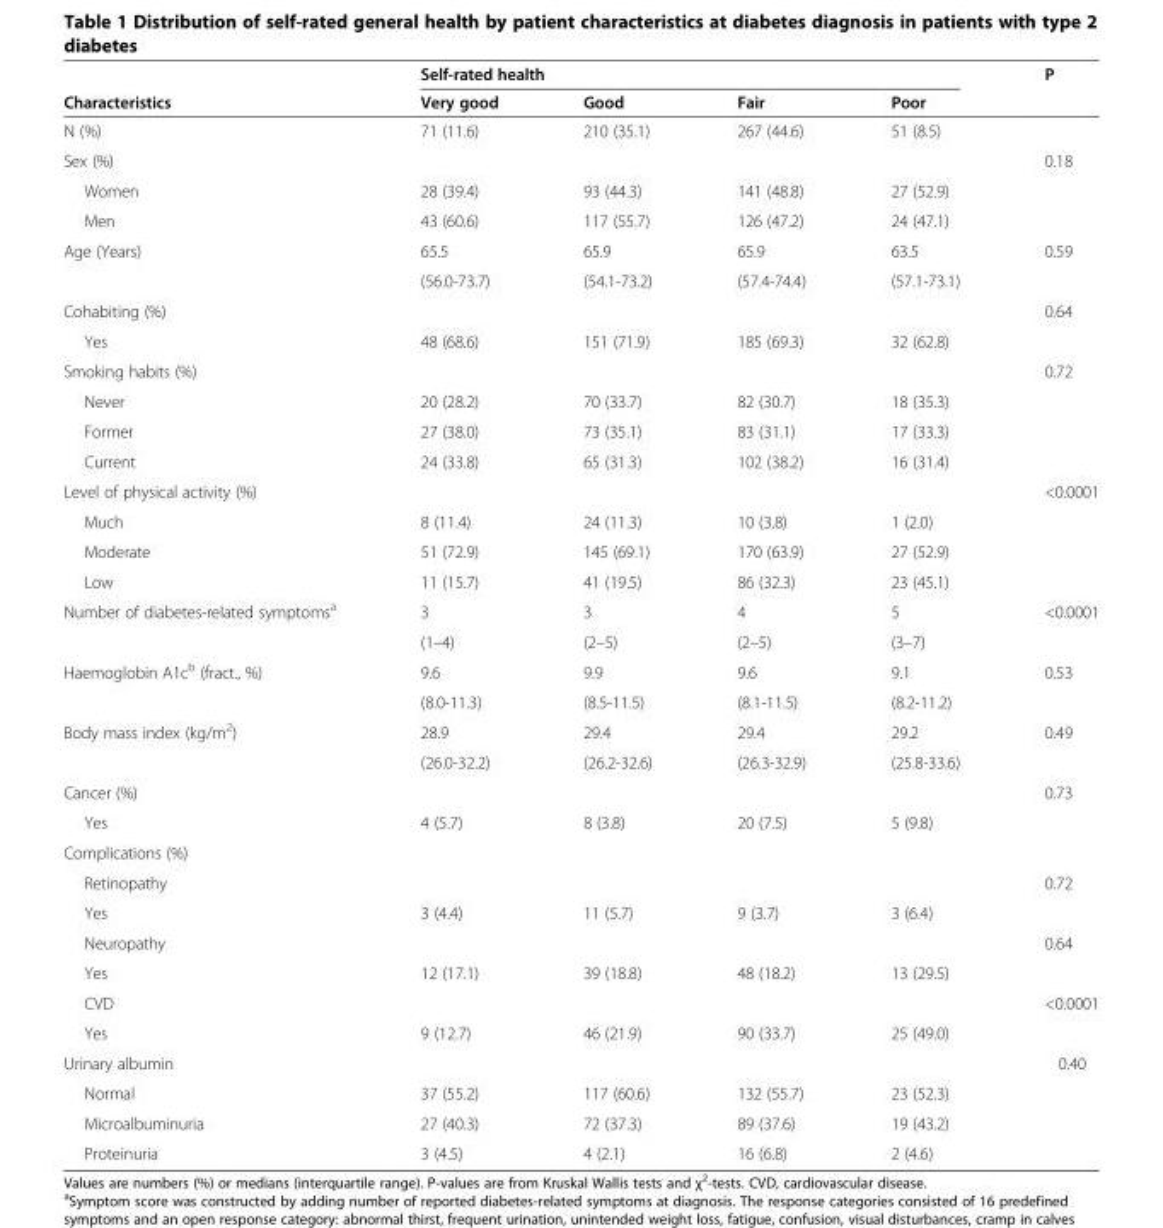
<table><thead><tr><td rowspan="2">Characteristics</td><td colspan="4">Self-rated health</td><td rowspan="2">P</td></tr><tr><td>Very good</td><td>Good</td><td>Fair</td><td>Poor</td></tr></thead><tbody><tr><td>N (%)</td><td>71 (11.6)</td><td>210 (35.1)</td><td>267 (44.6)</td><td>51 (8.5)</td><td></td></tr><tr><td>Sex (%)</td><td></td><td></td><td></td><td></td><td>0.18</td></tr><tr><td>Women</td><td>28 (39.4)</td><td>93 (44.3)</td><td>141 (48.8)</td><td>27 (52.9)</td><td></td></tr><tr><td>Men</td><td>43 (60.6)</td><td>117 (55.7)</td><td>126 (47.2)</td><td>24 (47.1)</td><td></td></tr><tr><td rowspan="2">Age (Years)</td><td>65.5</td><td>65.9</td><td>65.9</td><td>63.5</td><td rowspan="2">0.59</td></tr><tr><td>(56.0-73.7)</td><td>(54.1-73.2)</td><td>(57.4-74.4)</td><td>(57.1-73.1)</td></tr><tr><td colspan="5">Cohabiting (%)</td><td rowspan="2">0.64</td></tr><tr><td>Yes</td><td>48 (68.6)</td><td>151 (71.9)</td><td>185 (69.3)</td><td>32 (62.8)</td></tr><tr><td colspan="5">Smoking habits (%)</td><td rowspan="4">0.72</td></tr><tr><td>Never</td><td>20 (28.2)</td><td>70 (33.7)</td><td>82 (30.7)</td><td>18 (35.3)</td></tr><tr><td>Former</td><td>27 (38.0)</td><td>73 (35.1)</td><td>83 (31.1)</td><td>17 (33.3)</td></tr><tr><td>Current</td><td>24 (33.8)</td><td>65 (31.3)</td><td>102 (38.2)</td><td>16 (31.4)</td></tr><tr><td colspan="5">Level of physical activity (%)</td><td rowspan="4">&lt;0.0001</td></tr><tr><td>Much</td><td>8 (11.4)</td><td>24 (11.3)</td><td>10 (3.8)</td><td>1 (2.0)</td></tr><tr><td>Moderate</td><td>51 (72.9)</td><td>145 (69.1)</td><td>170 (63.9)</td><td>27 (52.9)</td></tr><tr><td>Low</td><td>11 (15.7)</td><td>41 (19.5)</td><td>86 (32.3)</td><td>23 (45.1)</td></tr><tr><td rowspan="2">Number of diabetes-related symptoms<sup>a</sup></td><td>3</td><td>3</td><td>4</td><td>5</td><td rowspan="2">&lt;0.0001</td></tr><tr><td>(1–4)</td><td>(2–5)</td><td>(2–5)</td><td>(3–7)</td></tr><tr><td rowspan="2">Haemoglobin A1c<sup>b</sup> (fract., %)</td><td>9.6</td><td>9.9</td><td>9.6</td><td>9.1</td><td rowspan="2">0.53</td></tr><tr><td>(8.0-11.3)</td><td>(8.5-11.5)</td><td>(8.1-11.5)</td><td>(8.2-11.2)</td></tr><tr><td rowspan="2">Body mass index (kg/m<sup>2</sup>)</td><td>28.9</td><td>29.4</td><td>29.4</td><td>29.2</td><td rowspan="2">0.49</td></tr><tr><td>(26.0-32.2)</td><td>(26.2-32.6)</td><td>(26.3-32.9)</td><td>(25.8-33.6)</td></tr><tr><td>Cancer (%)</td><td></td><td></td><td></td><td></td><td>0.73</td></tr><tr><td>Yes</td><td>4 (5.7)</td><td>8 (3.8)</td><td>20 (7.5)</td><td>5 (9.8)</td><td></td></tr><tr><td colspan="6">Complications (%)</td></tr><tr><td>Retinopathy</td><td></td><td></td><td></td><td></td><td>0.72</td></tr><tr><td>Yes</td><td>3 (4.4)</td><td>11 (5.7)</td><td>9 (3.7)</td><td>3 (6.4)</td><td></td></tr><tr><td>Neuropathy</td><td></td><td></td><td></td><td></td><td>0.64</td></tr><tr><td>Yes</td><td>12 (17.1)</td><td>39 (18.8)</td><td>48 (18.2)</td><td>13 (29.5)</td><td></td></tr><tr><td>CVD</td><td></td><td></td><td></td><td></td><td>&lt;0.0001</td></tr><tr><td>Yes</td><td>9 (12.7)</td><td>46 (21.9)</td><td>90 (33.7)</td><td>25 (49.0)</td><td></td></tr><tr><td colspan="5">Urinary albumin</td><td rowspan="4">0.40</td></tr><tr><td>Normal</td><td>37 (55.2)</td><td>117 (60.6)</td><td>132 (55.7)</td><td>23 (52.3)</td></tr><tr><td>Microalbuminuria</td><td>27 (40.3)</td><td>72 (37.3)</td><td>89 (37.6)</td><td>19 (43.2)</td></tr><tr><td>Proteinuria</td><td>3 (4.5)</td><td>4 (2.1)</td><td>16 (6.8)</td><td>2 (4.6)</td></tr></tbody></table>